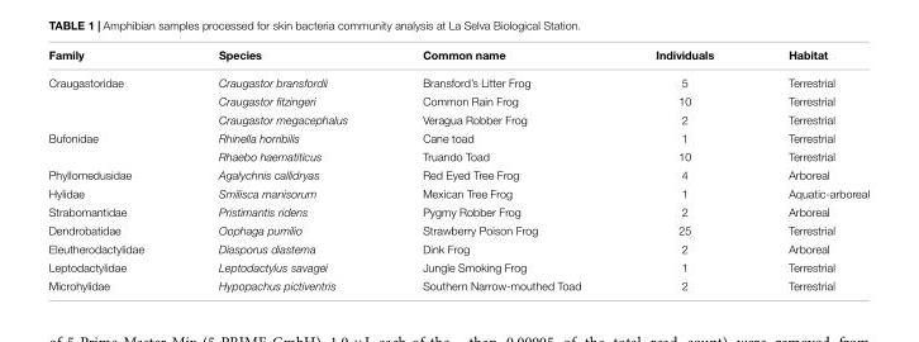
<table><thead><tr><td>Family</td><td>Species</td><td>Common name</td><td>Individuals</td><td>Habitat</td></tr></thead><tbody><tr><td rowspan="3">Craugastoridae</td><td>Craugastor bransfordii</td><td>Bransford’s Litter Frog</td><td>5</td><td>Terrestrial</td></tr><tr><td>Craugastor fitzingeri</td><td>Common Rain Frog</td><td>10</td><td>Terrestrial</td></tr><tr><td>Craugastor megacephalus</td><td>Veragua Robber Frog</td><td>2</td><td>Terrestrial</td></tr><tr><td rowspan="2">Bufonidae</td><td>Rhinella horribilis</td><td>Cane toad</td><td>1</td><td>Terrestrial</td></tr><tr><td>Rhaebo haematiticus</td><td>Truando Toad</td><td>10</td><td>Terrestrial</td></tr><tr><td>Phyllomedusidae</td><td>Agalychnis callidryas</td><td>Red Eyed Tree Frog</td><td>4</td><td>Arboreal</td></tr><tr><td>Hylidae</td><td>Smilisca manisorum</td><td>Mexican Tree Frog</td><td>1</td><td>Aquatic-arboreal</td></tr><tr><td>Strabomantidae</td><td>Pristimantis ridens</td><td>Pygmy Robber Frog</td><td>2</td><td>Arboreal</td></tr><tr><td>Dendrobatidae</td><td>Oophaga pumilio</td><td>Strawberry Poison Frog</td><td>25</td><td>Terrestrial</td></tr><tr><td>Eleutherodactylidae</td><td>Diasporus diastema</td><td>Dink Frog</td><td>2</td><td>Arboreal</td></tr><tr><td>Leptodactylidae</td><td>Leptodactylus savagei</td><td>Jungle Smoking Frog</td><td>1</td><td>Terrestrial</td></tr><tr><td>Microhylidae</td><td>Hypopachus pictiventris</td><td>Southern Narrow-mouthed Toad</td><td>2</td><td>Terrestrial</td></tr></tbody></table>